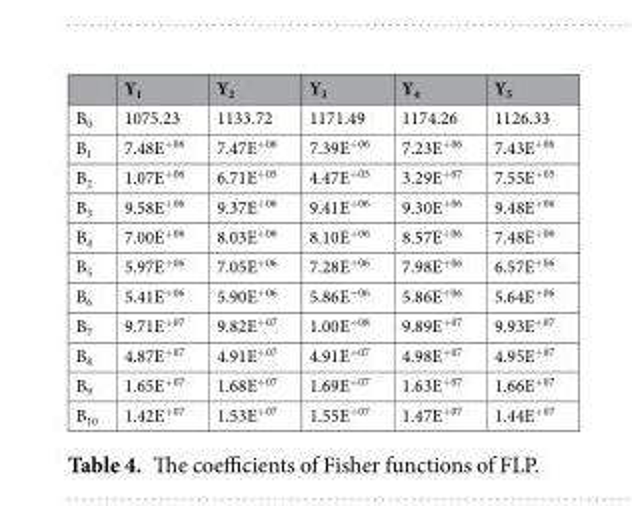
<table><thead><tr><td></td><td>Y<sub>1</sub></td><td>Y<sub>2</sub></td><td>Y<sub>3</sub></td><td>Y<sub>4</sub></td><td>Y<sub>5</sub></td></tr></thead><tbody><tr><td>B<sub>0</sub></td><td>1075.23</td><td>1133.72</td><td>1171.49</td><td>1174.26</td><td>1126.33</td></tr><tr><td>B<sub>1</sub></td><td>7.48E<sup>+06</sup></td><td>7.47E<sup>+06</sup></td><td>7.39E<sup>+06</sup></td><td>7.23E<sup>+06</sup></td><td>7.43E<sup>+06</sup></td></tr><tr><td>B<sub>2</sub></td><td>1.07E<sup>+06</sup></td><td>6.71E<sup>+05</sup></td><td>4.47E<sup>+05</sup></td><td>3.29E<sup>+07</sup></td><td>7.55E<sup>+05</sup></td></tr><tr><td>B<sub>3</sub></td><td>9.58E<sup>+06</sup></td><td>9.37E<sup>+06</sup></td><td>9.41E<sup>+06</sup></td><td>9.30E<sup>+06</sup></td><td>9.48E<sup>+06</sup></td></tr><tr><td>B<sub>4</sub></td><td>7.00E<sup>+06</sup></td><td>8.03E<sup>+06</sup></td><td>8.10E<sup>+06</sup></td><td>8.57E<sup>+06</sup></td><td>7.48E<sup>+06</sup></td></tr><tr><td>B<sub>5</sub></td><td>5.97E<sup>+06</sup></td><td>7.05E<sup>+06</sup></td><td>7.28E<sup>+06</sup></td><td>7.98E<sup>+06</sup></td><td>6.57E<sup>+06</sup></td></tr><tr><td>B<sub>6</sub></td><td>5.41E<sup>+06</sup></td><td>5.90E<sup>+06</sup></td><td>5.86E<sup>+06</sup></td><td>5.86E<sup>+06</sup></td><td>5.64E<sup>+06</sup></td></tr><tr><td>B<sub>7</sub></td><td>9.71E<sup>+07</sup></td><td>9.82E<sup>+07</sup></td><td>1.00E<sup>+08</sup></td><td>9.89E<sup>+07</sup></td><td>9.93E<sup>+07</sup></td></tr><tr><td>B<sub>8</sub></td><td>4.87E<sup>+07</sup></td><td>4.91E<sup>+07</sup></td><td>4.91E<sup>+07</sup></td><td>4.98E<sup>+07</sup></td><td>4.95E<sup>+07</sup></td></tr><tr><td>B<sub>9</sub></td><td>1.65E<sup>+07</sup></td><td>1.68E<sup>+07</sup></td><td>1.69E<sup>+07</sup></td><td>1.63E<sup>+07</sup></td><td>1.66E<sup>+07</sup></td></tr><tr><td>B<sub>10</sub></td><td>1.42E<sup>+07</sup></td><td>1.53E<sup>+07</sup></td><td>1.55E<sup>+07</sup></td><td>1.47E<sup>+07</sup></td><td>1.44E<sup>+07</sup></td></tr></tbody></table>